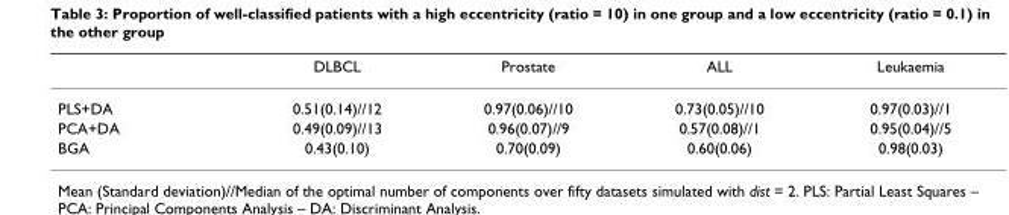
<table><thead><tr><td></td><td>DLBCL</td><td>Prostate</td><td>ALL</td><td>Leukaemia</td></tr></thead><tbody><tr><td>PLS+DA</td><td>0.51(0.14)//12</td><td>0.97(0.06)//10</td><td>0.73(0.05)//10</td><td>0.97(0.03)//1</td></tr><tr><td>PCA+DA</td><td>0.49(0.09)//13</td><td>0.96(0.07)//9</td><td>0.57(0.08)//1</td><td>0.95(0.04)//5</td></tr><tr><td>BGA</td><td>0.43(0.10)</td><td>0.70(0.09)</td><td>0.60(0.06)</td><td>0.98(0.03)</td></tr></tbody></table>